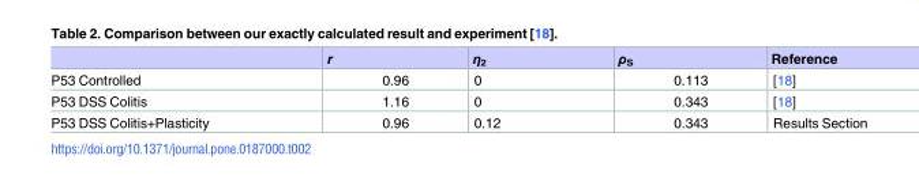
<table><thead><tr><td></td><td>r</td><td>η<sub>2</sub></td><td>ρ<sub>S</sub></td><td>Reference</td></tr></thead><tbody><tr><td>P53 Controlled</td><td>0.96</td><td>0</td><td>0.113</td><td>[18]</td></tr><tr><td>P53 DSS Colitis</td><td>1.16</td><td>0</td><td>0.343</td><td>[18]</td></tr><tr><td>P53 DSS Colitis+Plasticity</td><td>0.96</td><td>0.12</td><td>0.343</td><td>Results Section</td></tr></tbody></table>